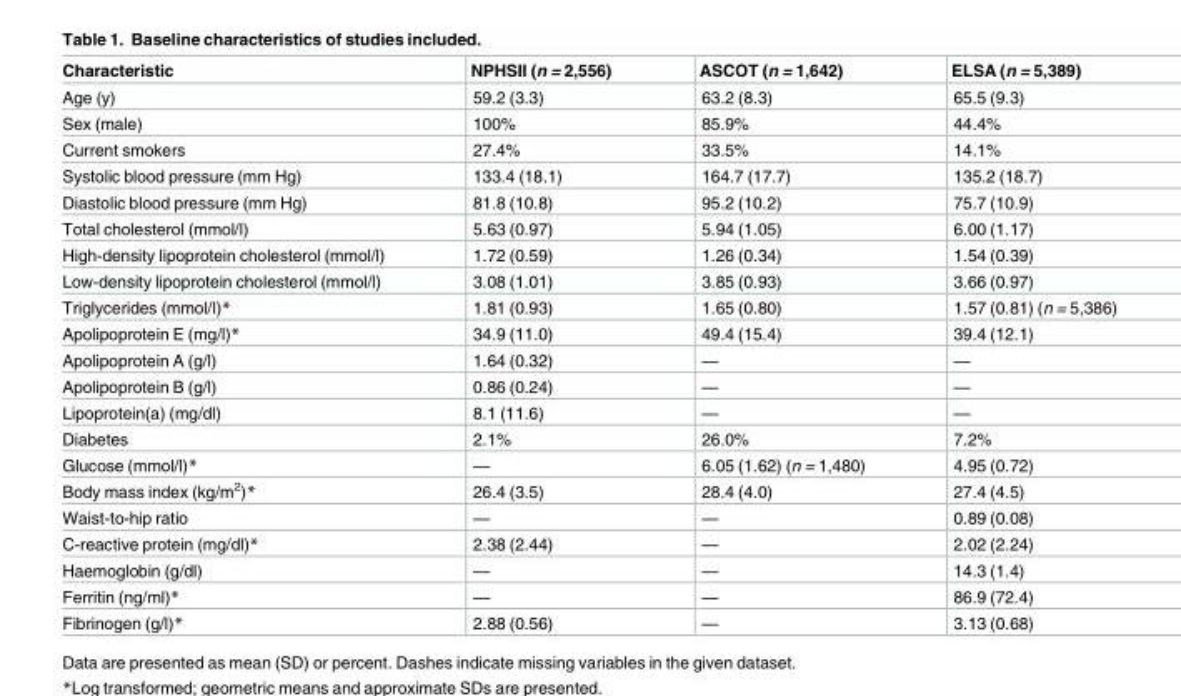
<table><thead><tr><td>Characteristic</td><td>NPHSII (n = 2,556)</td><td>ASCOT (n = 1,642)</td><td>ELSA (n = 5,389)</td></tr></thead><tbody><tr><td>Age (y)</td><td>59.2 (3.3)</td><td>63.2 (8.3)</td><td>65.5 (9.3)</td></tr><tr><td>Sex (male)</td><td>100%</td><td>85.9%</td><td>44.4%</td></tr><tr><td>Current smokers</td><td>27.4%</td><td>33.5%</td><td>14.1%</td></tr><tr><td>Systolic blood pressure (mm Hg)</td><td>133.4 (18.1)</td><td>164.7 (17.7)</td><td>135.2 (18.7)</td></tr><tr><td>Diastolic blood pressure (mm Hg)</td><td>81.8 (10.8)</td><td>95.2 (10.2)</td><td>75.7 (10.9)</td></tr><tr><td>Total cholesterol (mmol/l)</td><td>5.63 (0.97)</td><td>5.94 (1.05)</td><td>6.00 (1.17)</td></tr><tr><td>High-density lipoprotein cholesterol (mmol/l)</td><td>1.72 (0.59)</td><td>1.26 (0.34)</td><td>1.54 (0.39)</td></tr><tr><td>Low-density lipoprotein cholesterol (mmol/l)</td><td>3.08 (1.01)</td><td>3.85 (0.93)</td><td>3.66 (0.97)</td></tr><tr><td>Triglycerides (mmol/l)*</td><td>1.81 (0.93)</td><td>1.65 (0.80)</td><td>1.57 (0.81) (n = 5,386)</td></tr><tr><td>Apolipoprotein E (mg/l)*</td><td>34.9 (11.0)</td><td>49.4 (15.4)</td><td>39.4 (12.1)</td></tr><tr><td>Apolipoprotein A (g/l)</td><td>1.64 (0.32)</td><td>—</td><td>—</td></tr><tr><td>Apolipoprotein B (g/l)</td><td>0.86 (0.24)</td><td>—</td><td>—</td></tr><tr><td>Lipoprotein(a) (mg/dl)</td><td>8.1 (11.6)</td><td>—</td><td>—</td></tr><tr><td>Diabetes</td><td>2.1%</td><td>26.0%</td><td>7.2%</td></tr><tr><td>Glucose (mmol/l)*</td><td>—</td><td>6.05 (1.62) (n = 1,480)</td><td>4.95 (0.72)</td></tr><tr><td>Body mass index (kg/m<sup>2</sup>)*</td><td>26.4 (3.5)</td><td>28.4 (4.0)</td><td>27.4 (4.5)</td></tr><tr><td>Waist-to-hip ratio</td><td>—</td><td>—</td><td>0.89 (0.08)</td></tr><tr><td>C-reactive protein (mg/dl)*</td><td>2.38 (2.44)</td><td>—</td><td>2.02 (2.24)</td></tr><tr><td>Haemoglobin (g/dl)</td><td>—</td><td>—</td><td>14.3 (1.4)</td></tr><tr><td>Ferritin (ng/ml)*</td><td>—</td><td>—</td><td>86.9 (72.4)</td></tr><tr><td>Fibrinogen (g/l)*</td><td>2.88 (0.56)</td><td>—</td><td>3.13 (0.68)</td></tr></tbody></table>